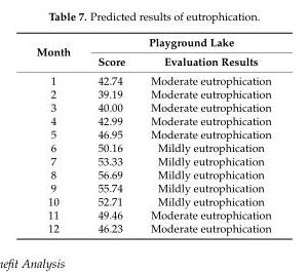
<table><thead><tr><td rowspan="2">Month</td><td colspan="2">Playground Lake</td></tr><tr><td>Score</td><td>Evaluation Results</td></tr></thead><tbody><tr><td>1</td><td>42.74</td><td>Moderate eutrophication</td></tr><tr><td>2</td><td>39.19</td><td>Moderate eutrophication</td></tr><tr><td>3</td><td>40.00</td><td>Moderate eutrophication</td></tr><tr><td>4</td><td>42.99</td><td>Moderate eutrophication</td></tr><tr><td>5</td><td>46.95</td><td>Moderate eutrophication</td></tr><tr><td>6</td><td>50.16</td><td>Mildly eutrophication</td></tr><tr><td>7</td><td>53.33</td><td>Mildly eutrophication</td></tr><tr><td>8</td><td>56.69</td><td>Mildly eutrophication</td></tr><tr><td>9</td><td>55.74</td><td>Mildly eutrophication</td></tr><tr><td>10</td><td>52.71</td><td>Mildly eutrophication</td></tr><tr><td>11</td><td>49.46</td><td>Moderate eutrophication</td></tr><tr><td>12</td><td>46.23</td><td>Moderate eutrophication</td></tr></tbody></table>